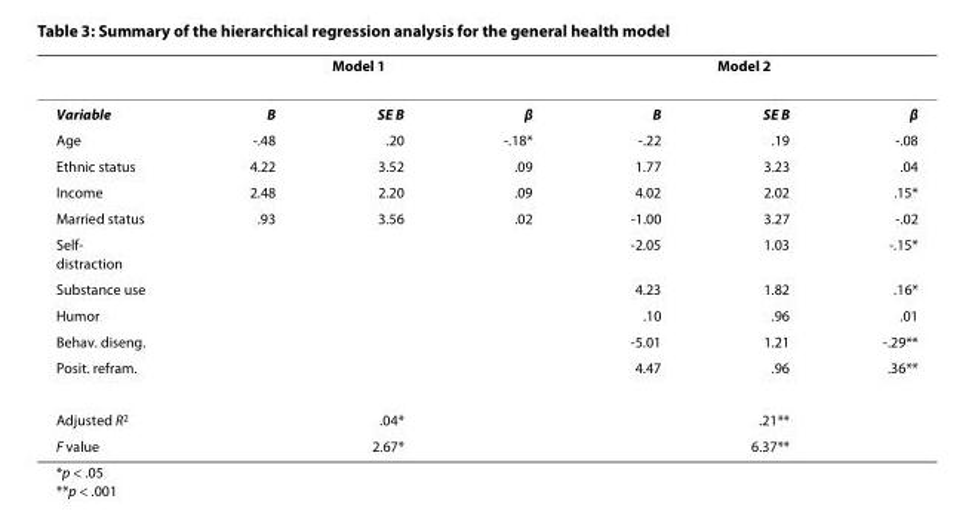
<table><thead><tr><td rowspan="2">Variable</td><td colspan="3">Model 1</td><td colspan="3">Model 2</td></tr><tr><td>B</td><td>SE B</td><td>β</td><td>B</td><td>SE B</td><td>β</td></tr></thead><tbody><tr><td>Age</td><td>-.48</td><td>.20</td><td>-.18*</td><td>-.22</td><td>.19</td><td>-.08</td></tr><tr><td>Ethnic status</td><td>4.22</td><td>3.52</td><td>.09</td><td>1.77</td><td>3.23</td><td>.04</td></tr><tr><td>Income</td><td>2.48</td><td>2.20</td><td>.09</td><td>4.02</td><td>2.02</td><td>.15*</td></tr><tr><td>Married status</td><td>.93</td><td>3.56</td><td>.02</td><td>-1.00</td><td>3.27</td><td>-.02</td></tr><tr><td>Self- distraction</td><td></td><td></td><td></td><td>-2.05</td><td>1.03</td><td>-.15*</td></tr><tr><td>Substance use</td><td></td><td></td><td></td><td>4.23</td><td>1.82</td><td>.16*</td></tr><tr><td>Humor</td><td></td><td></td><td></td><td>.10</td><td>.96</td><td>.01</td></tr><tr><td>Behav. diseng.</td><td></td><td></td><td></td><td>-5.01</td><td>1.21</td><td>-.29**</td></tr><tr><td>Posit. refram.</td><td></td><td></td><td></td><td>4.47</td><td>.96</td><td>.36**</td></tr><tr><td>Adjusted R<sup>2</sup></td><td></td><td>.04*</td><td></td><td></td><td>.21**</td><td></td></tr><tr><td>F value</td><td></td><td>2.67*</td><td></td><td></td><td>6.37**</td><td></td></tr></tbody></table>